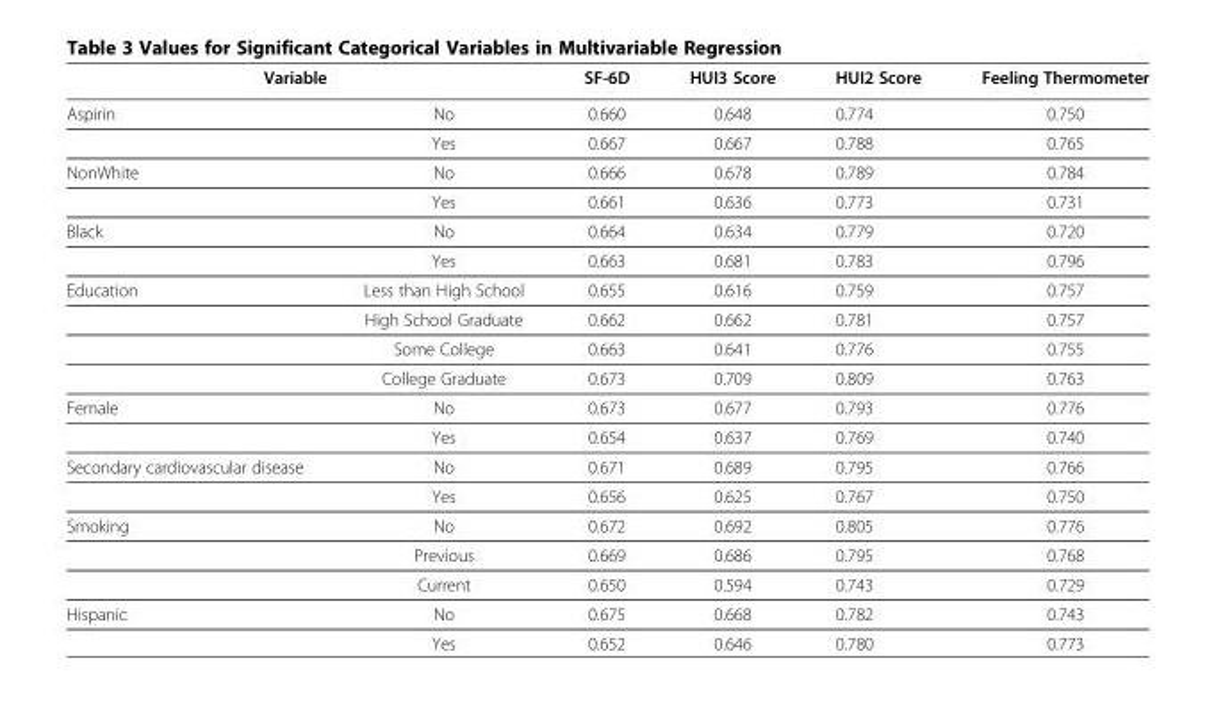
<table><thead><tr><td colspan="2">Variable</td><td rowspan="2">SF-6D 0.660</td><td rowspan="2">HUI3 Score 0.648</td><td rowspan="2">HUI2 Score 0.774</td><td rowspan="2">Feeling Thermometer 0.750</td></tr><tr><td>Aspirin</td><td>No</td></tr></thead><tbody><tr><td></td><td>Yes</td><td>0.667</td><td>0.667</td><td>0.788</td><td>0.765</td></tr><tr><td rowspan="2">NonWhite</td><td>No</td><td>0.666</td><td>0.678</td><td>0.789</td><td>0.784</td></tr><tr><td>Yes</td><td>0.661</td><td>0.636</td><td>0.773</td><td>0.731</td></tr><tr><td rowspan="2">Black</td><td>No</td><td>0.664</td><td>0.634</td><td>0.779</td><td>0.720</td></tr><tr><td>Yes</td><td>0.663</td><td>0.681</td><td>0.783</td><td>0.796</td></tr><tr><td rowspan="4">Education</td><td>Less than High School</td><td>0.655</td><td>0.616</td><td>0.759</td><td>0.757</td></tr><tr><td>High School Graduate</td><td>0.662</td><td>0.662</td><td>0.781</td><td>0.757</td></tr><tr><td>Some College</td><td>0.663</td><td>0.641</td><td>0.776</td><td>0.755</td></tr><tr><td>College Graduate</td><td>0.673</td><td>0.709</td><td>0.809</td><td>0.763</td></tr><tr><td rowspan="2">Female</td><td>No</td><td>0.673</td><td>0.677</td><td>0.793</td><td>0.776</td></tr><tr><td>Yes</td><td>0.654</td><td>0.637</td><td>0.769</td><td>0.740</td></tr><tr><td rowspan="2">Secondary cardiovascular disease</td><td>No</td><td>0.671</td><td>0.689</td><td>0.795</td><td>0.766</td></tr><tr><td>Yes</td><td>0.656</td><td>0.625</td><td>0.767</td><td>0.750</td></tr><tr><td rowspan="3">Smoking</td><td>No</td><td>0.672</td><td>0.692</td><td>0.805</td><td>0.776</td></tr><tr><td>Previous</td><td>0.669</td><td>0.686</td><td>0.795</td><td>0.768</td></tr><tr><td>Current</td><td>0.650</td><td>0.594</td><td>0.743</td><td>0.729</td></tr><tr><td rowspan="2">Hispanic</td><td>No</td><td>0.675</td><td>0.668</td><td>0.782</td><td>0.743</td></tr><tr><td>Yes</td><td>0.652</td><td>0.646</td><td>0.780</td><td>0.773</td></tr></tbody></table>